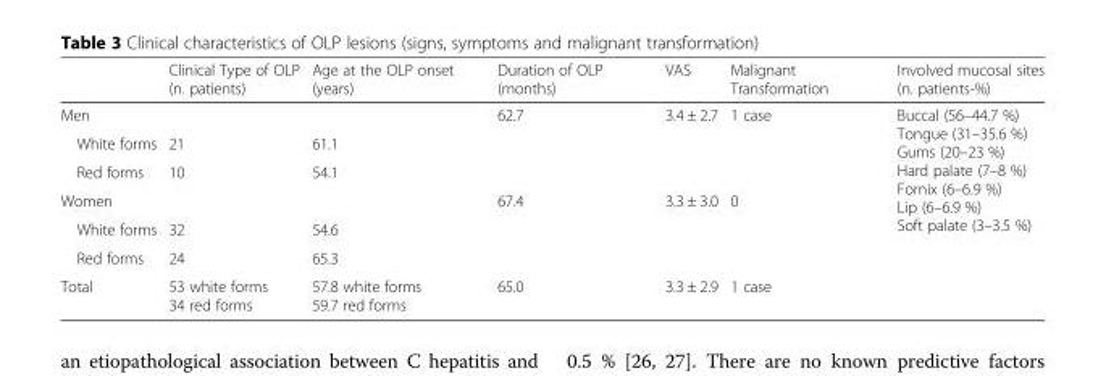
<table><thead><tr><td></td><td>Clinical Type of OLP (n. patients)</td><td>Age at the OLP onset (years)</td><td>Duration of OLP (months)</td><td>VAS</td><td>Malignant Transformation</td><td>Involved mucosal sites (n. patients-%)</td></tr></thead><tbody><tr><td colspan="3">Men</td><td rowspan="3">62.7</td><td rowspan="3">3.4 ± 2.7</td><td rowspan="3">1 case</td><td rowspan="7">Buccal (56–44.7 %) Tongue (31–35.6 %) Gums (20–23 %) Hard palate (7–8 %) Fornix (6–6.9 %) Lip (6–6.9 %) Soft palate (3–3.5 %)</td></tr><tr><td>White forms</td><td>21</td><td>61.1</td></tr><tr><td>Red forms</td><td>10</td><td>54.1</td></tr><tr><td colspan="3">Women</td><td rowspan="3">67.4</td><td rowspan="3">3.3 ± 3.0</td><td rowspan="3">0</td></tr><tr><td>White forms</td><td>32</td><td>54.6</td></tr><tr><td>Red forms</td><td>24</td><td>65.3</td></tr><tr><td>Total</td><td>53 white forms 34 red forms</td><td>57.8 white forms 59.7 red forms</td><td>65.0</td><td>3.3 ± 2.9</td><td>1 case</td></tr></tbody></table>